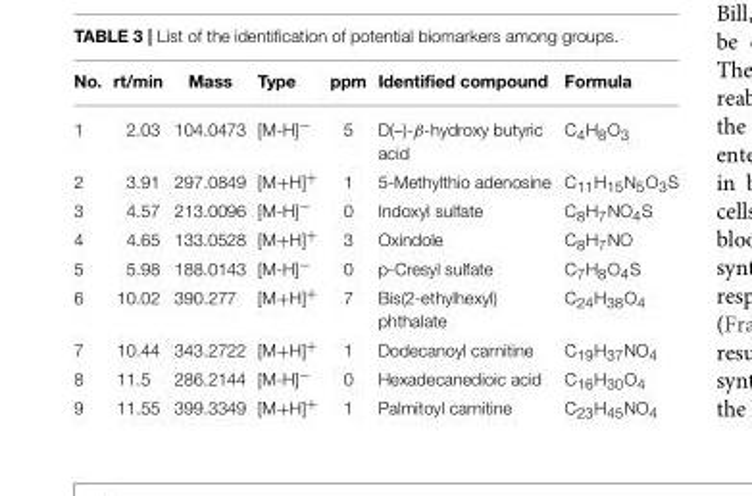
<table><thead><tr><td>No.</td><td>rt/min</td><td>Mass</td><td>Type</td><td>ppm</td><td>Identified compound</td><td>Formula</td></tr></thead><tbody><tr><td>1</td><td>2.03</td><td>104.0473</td><td>[M-H]<sup>−</sup></td><td>5</td><td>D(–)-β-hydroxy butyric acid</td><td>C<sub>4</sub>H<sub>8</sub>O<sub>3</sub></td></tr><tr><td>2</td><td>3.91</td><td>297.0849</td><td>[M+H]<sup>+</sup></td><td>1</td><td>5-Methylthio adenosine</td><td>C<sub>11</sub>H<sub>15</sub>N<sub>5</sub>O<sub>3</sub>S</td></tr><tr><td>3</td><td>4.57</td><td>213.0096</td><td>[M-H]<sup>−</sup></td><td>0</td><td>Indoxyl sulfate</td><td>C<sub>8</sub>H<sub>7</sub>NO<sub>4</sub>S</td></tr><tr><td>4</td><td>4.65</td><td>133.0528</td><td>[M+H]<sup>+</sup></td><td>3</td><td>Oxindole</td><td>C<sub>8</sub>H<sub>7</sub>NO</td></tr><tr><td>5</td><td>5.98</td><td>188.0143</td><td>[M-H]<sup>−</sup></td><td>0</td><td>p-Cresyl sulfate</td><td>C<sub>7</sub>H<sub>8</sub>O<sub>4</sub>S</td></tr><tr><td>6</td><td>10.02</td><td>390.277</td><td>[M+H]<sup>+</sup></td><td>7</td><td>Bis(2-ethylhexyl) phthalate</td><td>C<sub>24</sub>H<sub>38</sub>O<sub>4</sub></td></tr><tr><td>7</td><td>10.44</td><td>343.2722</td><td>[M+H]<sup>+</sup></td><td>1</td><td>Dodecanoyl carnitine</td><td>C<sub>19</sub>H<sub>37</sub>NO<sub>4</sub></td></tr><tr><td>8</td><td>11.5</td><td>286.2144</td><td>[M-H]<sup>−</sup></td><td>0</td><td>Hexadecanedioic acid</td><td>C<sub>16</sub>H<sub>30</sub>O<sub>4</sub></td></tr><tr><td>9</td><td>11.55</td><td>399.3349</td><td>[M+H]<sup>+</sup></td><td>1</td><td>Palmitoyl carnitine</td><td>C<sub>23</sub>H<sub>45</sub>NO<sub>4</sub></td></tr></tbody></table>